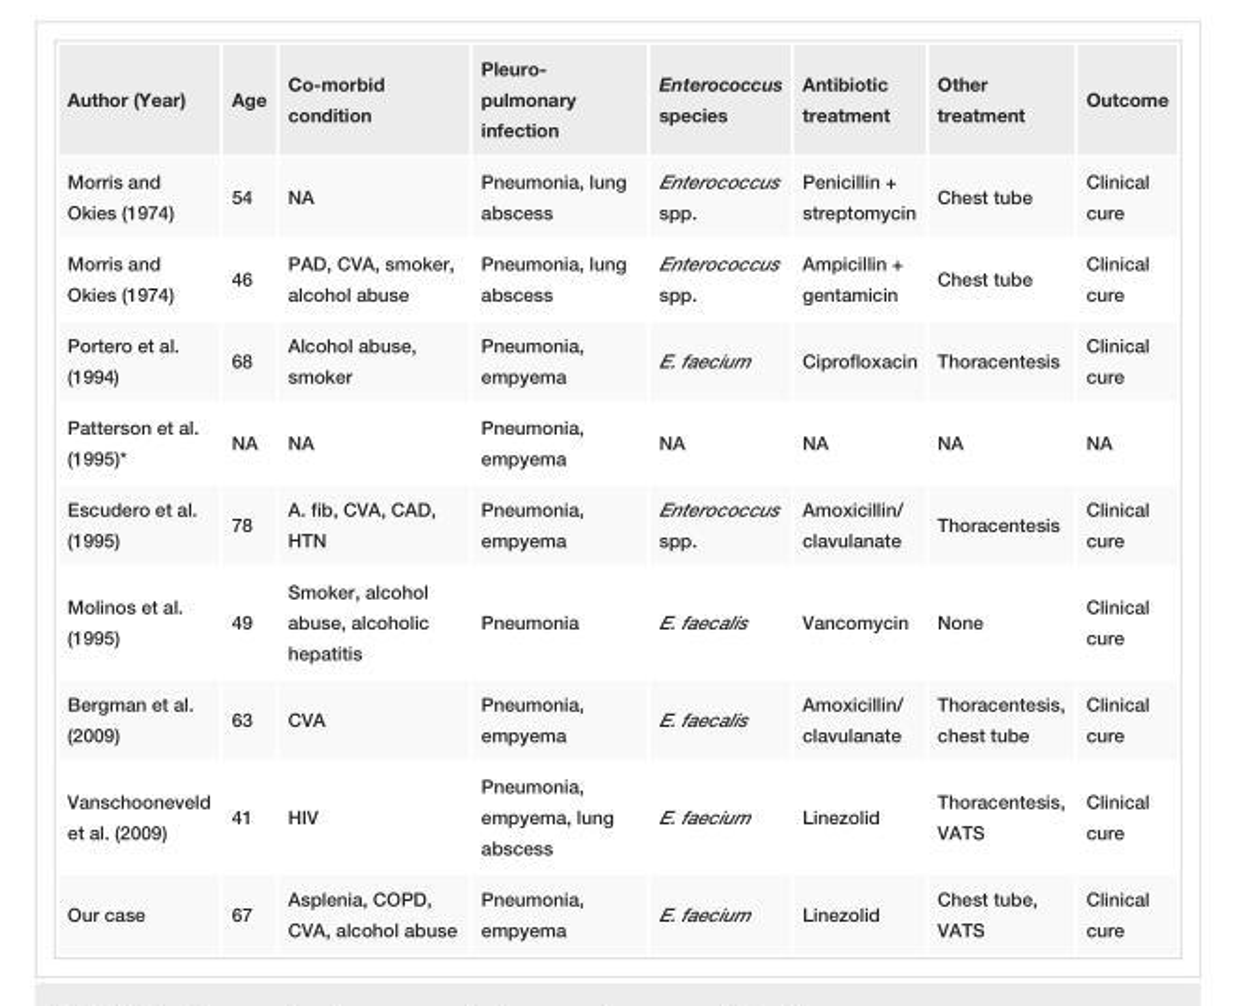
<table><tbody><tr><td>Author (Year)</td><td>Age</td><td>Co-morbid condition</td><td>Pleuro- pulmonary infection</td><td>Enterococcus species</td><td>Antibiotic treatment</td><td>Other treatment</td><td>Outcome</td></tr><tr><td>Morris and Okies (1974)</td><td>54</td><td>NA</td><td>Pneumonia, lung abscess</td><td>Enterococcus spp.</td><td>Penicillin + streptomycin</td><td>Chest tube</td><td>Clinical cure</td></tr><tr><td>Morris and Okies (1974)</td><td>46</td><td>PAD, CVA, smoker, alcohol abuse</td><td>Pneumonia, lung abscess</td><td>Enterococcus spp.</td><td>Ampicillin + gentamicin</td><td>Chest tube</td><td>Clinical cure</td></tr><tr><td>Portero et al. (1994)</td><td>68</td><td>Alcohol abuse, smoker</td><td>Pneumonia, empyema</td><td>E. faecium</td><td>Ciprofloxacin</td><td>Thoracentesis</td><td>Clinical cure</td></tr><tr><td>Patterson et al. (1995)*</td><td>NA</td><td>NA</td><td>Pneumonia, empyema</td><td>NA</td><td>NA</td><td>NA</td><td>NA</td></tr><tr><td>Escudero et al. (1995)</td><td>78</td><td>A. fib, CVA, CAD, HTN</td><td>Pneumonia, empyema</td><td>Enterococcus spp.</td><td>Amoxicillin/ clavulanate</td><td>Thoracentesis</td><td>Clinical cure</td></tr><tr><td>Molinos et al. (1995)</td><td>49</td><td>Smoker, alcohol abuse, alcoholic hepatitis</td><td>Pneumonia</td><td>E. faecalis</td><td>Vancomycin</td><td>None</td><td>Clinical cure</td></tr><tr><td>Bergman et al. (2009)</td><td>63</td><td>CVA</td><td>Pneumonia, empyema</td><td>E. faecalis</td><td>Amoxicillin/ clavulanate</td><td>Thoracentesis, chest tube</td><td>Clinical cure</td></tr><tr><td>Vanschooneveld et al. (2009)</td><td>41</td><td>HIV</td><td>Pneumonia, empyema, lung abscess</td><td>E. faecium</td><td>Linezolid</td><td>Thoracentesis, VATS</td><td>Clinical cure</td></tr><tr><td>Our case</td><td>67</td><td>Asplenia, COPD, CVA, alcohol abuse</td><td>Pneumonia, empyema</td><td>E. faecium</td><td>Linezolid</td><td>Chest tube, VATS</td><td>Clinical cure</td></tr></tbody></table>